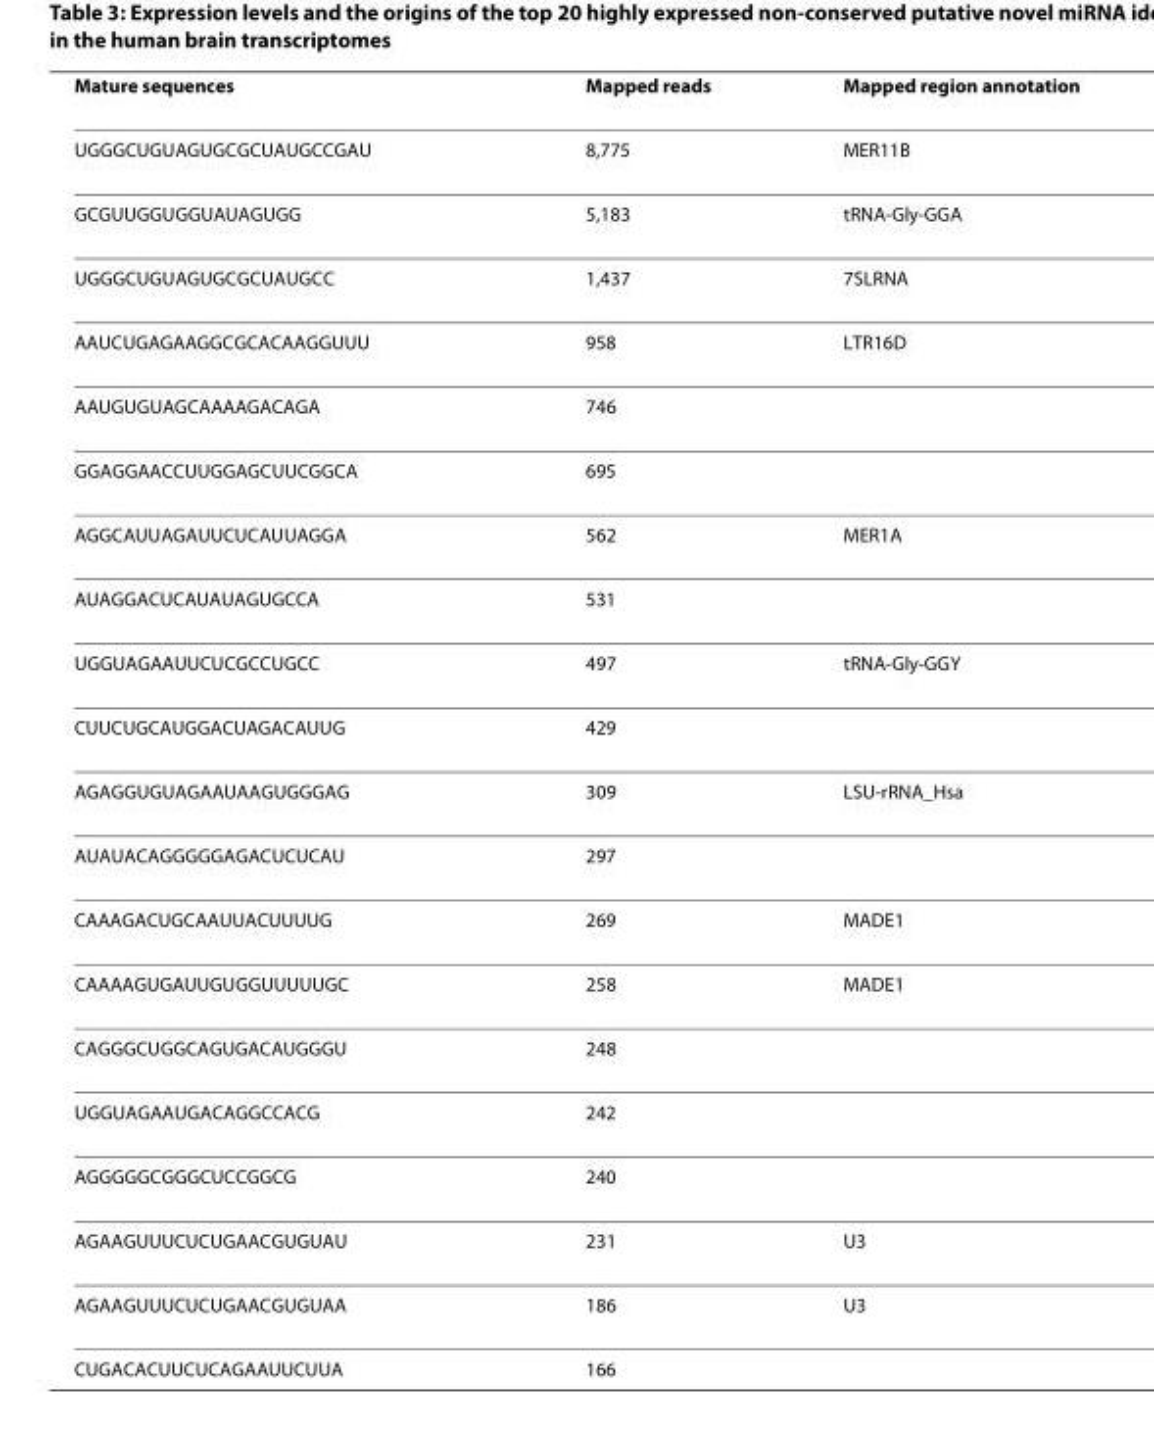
<table><thead><tr><td>Mature sequences</td><td>Mapped reads</td><td>Mapped region annotation</td></tr></thead><tbody><tr><td>UGGGCUGUAGUGCGCUAUGCCGAU</td><td>8,775</td><td>MER11B</td></tr><tr><td>GCGUUGGUGGUAUAGUGG</td><td>5,183</td><td>tRNA-Gly-GGA</td></tr><tr><td>UGGGCUGUAGUGCGCUAUGCC</td><td>1,437</td><td>7SLRNA</td></tr><tr><td>AAUCUGAGAAGGCGCACAAGGUUU</td><td>958</td><td>LTR16D</td></tr><tr><td>AAUGUGUAGCAAAAGACAGA</td><td>746</td><td></td></tr><tr><td>GGAGGAACCUUGGAGCUUCGGCA</td><td>695</td><td></td></tr><tr><td>AGGCAUUAGAUUCUCAUUAGGA</td><td>562</td><td>MER1A</td></tr><tr><td>AUAGGACUCAUAUAGUGCCA</td><td>531</td><td></td></tr><tr><td>UGGUAGAAUUCUCGCCUGCC</td><td>497</td><td>tRNA-Gly-GGY</td></tr><tr><td>CUUCUGCAUGGACUAGACAUUG</td><td>429</td><td></td></tr><tr><td>AGAGGUGUAGAAUAAGUGGGAG</td><td>309</td><td>LSU-rRNA_Hsa</td></tr><tr><td>AUAUACAGGGGGAGACUCUCAU</td><td>297</td><td></td></tr><tr><td>CAAAGACUGCAAUUACUUUUG</td><td>269</td><td>MADE1</td></tr><tr><td>CAAAAGUGAUUGUGGUUUUUGC</td><td>258</td><td>MADE1</td></tr><tr><td>CAGGGCUGGCAGUGACAUGGGU</td><td>248</td><td></td></tr><tr><td>UGGUAGAAUGACAGGCCACG</td><td>242</td><td></td></tr><tr><td>AGGGGGCGGGCUCCGGCG</td><td>240</td><td></td></tr><tr><td>AGAAGUUUCUCUGAACGUGUAU</td><td>231</td><td>U3</td></tr><tr><td>AGAAGUUUCUCUGAACGUGUAA</td><td>186</td><td>U3</td></tr><tr><td>CUGACACUUCUCAGAAUUCUUA</td><td>166</td><td></td></tr></tbody></table>